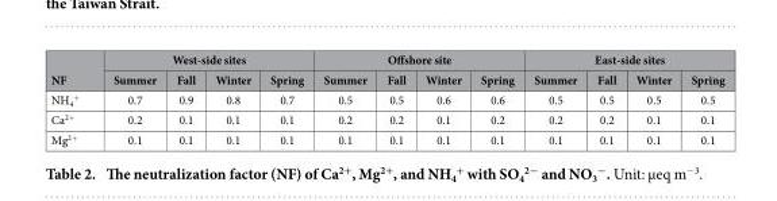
<table><thead><tr><td rowspan="2">NF</td><td colspan="4">West-side sites</td><td colspan="4">Offshore site</td><td colspan="4">East-side sites</td></tr><tr><td>Summer</td><td>Fall</td><td>Winter</td><td>Spring</td><td>Summer</td><td>Fall</td><td>Winter</td><td>Spring</td><td>Summer</td><td>Fall</td><td>Winter</td><td>Spring</td></tr></thead><tbody><tr><td>NH<sub>4</sub> <sup>+</sup></td><td>0.7</td><td>0.9</td><td>0.8</td><td>0.7</td><td>0.5</td><td>0.5</td><td>0.6</td><td>0.6</td><td>0.5</td><td>0.5</td><td>0.5</td><td>0.5</td></tr><tr><td>Ca<sup>2+</sup></td><td>0.2</td><td>0.1</td><td>0.1</td><td>0.1</td><td>0.2</td><td>0.2</td><td>0.1</td><td>0.2</td><td>0.2</td><td>0.2</td><td>0.1</td><td>0.1</td></tr><tr><td>Mg<sup>2+</sup></td><td>0.1</td><td>0.1</td><td>0.1</td><td>0.1</td><td>0.1</td><td>0.1</td><td>0.1</td><td>0.1</td><td>0.1</td><td>0.1</td><td>0.1</td><td>0.1</td></tr></tbody></table>